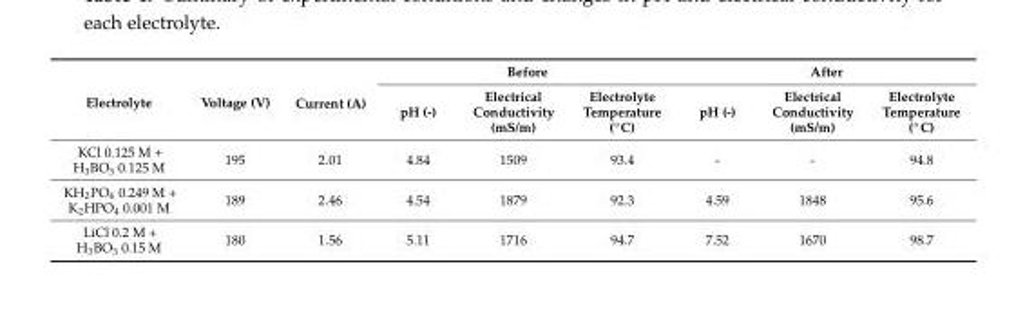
<table><thead><tr><td rowspan="2">Electrolyte</td><td rowspan="2">Voltage (V)</td><td rowspan="2">Current (A)</td><td colspan="3">Before</td><td colspan="3">After</td></tr><tr><td>pH (-)</td><td>Electrical Conductivity (mS/m)</td><td>Electrolyte Temperature (◦C)</td><td>pH (-)</td><td>Electrical Conductivity (mS/m)</td><td>Electrolyte Temperature (◦C)</td></tr></thead><tbody><tr><td>KCl 0.125 M + H<sub>3</sub>BO<sub>3</sub> 0.125 M</td><td>195</td><td>2.01</td><td>4.84</td><td>1509</td><td>93.4</td><td>-</td><td>-</td><td>94.8</td></tr><tr><td>KH<sub>2</sub>PO<sub>4</sub> 0.249 M + K<sub>2</sub>HPO<sub>4</sub> 0.001 M</td><td>189</td><td>2.46</td><td>4.54</td><td>1879</td><td>92.3</td><td>4.59</td><td>1848</td><td>95.6</td></tr><tr><td>LiCl 0.2 M + H<sub>3</sub>BO<sub>3</sub> 0.15 M</td><td>180</td><td>1.56</td><td>5.11</td><td>1716</td><td>94.7</td><td>7.52</td><td>1670</td><td>98.7</td></tr></tbody></table>